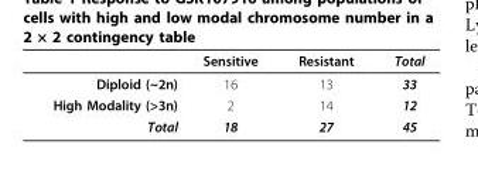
<table><thead><tr><td></td><td>Sensitive</td><td>Resistant</td><td>Total</td></tr></thead><tbody><tr><td>Diploid (~2n)</td><td>16</td><td>13</td><td>33</td></tr><tr><td>High Modality (&gt;3n)</td><td>2</td><td>14</td><td>12</td></tr><tr><td>Total</td><td>18</td><td>27</td><td>45</td></tr></tbody></table>